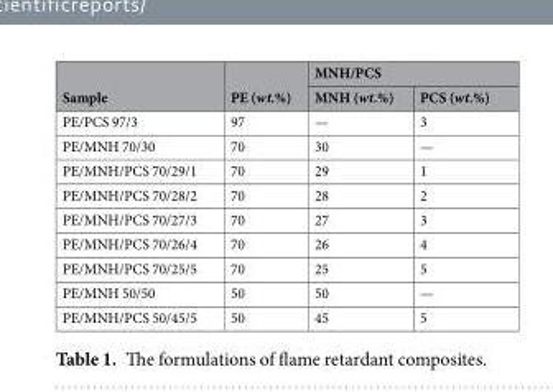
<table><thead><tr><td rowspan="2">Sample</td><td rowspan="2">PE (wt.%)</td><td colspan="2">MNH/PCS</td></tr><tr><td>MNH (wt.%)</td><td>PCS (wt.%)</td></tr></thead><tbody><tr><td>PE/PCS 97/3</td><td>97</td><td>—</td><td>3</td></tr><tr><td>PE/MNH 70/30</td><td>70</td><td>30</td><td>—</td></tr><tr><td>PE/MNH/PCS 70/29/1</td><td>70</td><td>29</td><td>1</td></tr><tr><td>PE/MNH/PCS 70/28/2</td><td>70</td><td>28</td><td>2</td></tr><tr><td>PE/MNH/PCS 70/27/3</td><td>70</td><td>27</td><td>3</td></tr><tr><td>PE/MNH/PCS 70/26/4</td><td>70</td><td>26</td><td>4</td></tr><tr><td>PE/MNH/PCS 70/25/5</td><td>70</td><td>25</td><td>5</td></tr><tr><td>PE/MNH 50/50</td><td>50</td><td>50</td><td>—</td></tr><tr><td>PE/MNH/PCS 50/45/5</td><td>50</td><td>45</td><td>5</td></tr></tbody></table>